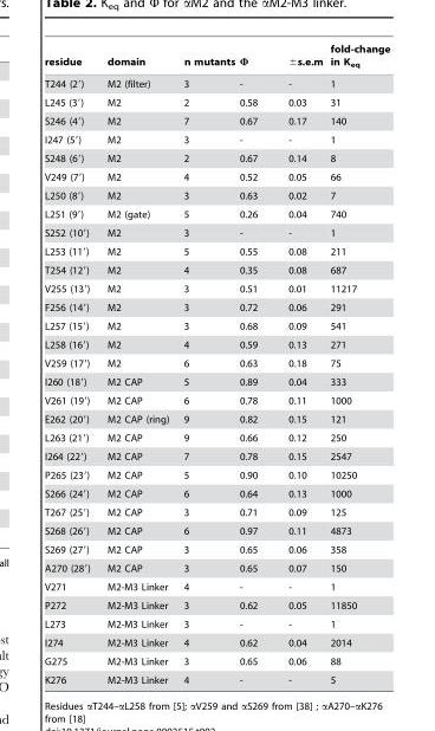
<table><thead><tr><td>residue</td><td>domain</td><td>n mutants</td><td>Φ</td><td>±s.e.m</td><td>fold-change in K<sub>eq</sub></td></tr></thead><tbody><tr><td>T244 (2′)</td><td>M2 (filter)</td><td>3</td><td>-</td><td>-</td><td>1</td></tr><tr><td>L245 (3′)</td><td>M2</td><td>2</td><td>0.58</td><td>0.03</td><td>31</td></tr><tr><td>S246 (4′)</td><td>M2</td><td>7</td><td>0.67</td><td>0.17</td><td>140</td></tr><tr><td>I247 (5′)</td><td>M2</td><td>3</td><td>-</td><td>-</td><td>1</td></tr><tr><td>S248 (6′)</td><td>M2</td><td>2</td><td>0.67</td><td>0.14</td><td>8</td></tr><tr><td>V249 (7′)</td><td>M2</td><td>4</td><td>0.52</td><td>0.05</td><td>66</td></tr><tr><td>L250 (8′)</td><td>M2</td><td>3</td><td>0.63</td><td>0.02</td><td>7</td></tr><tr><td>L251 (9′)</td><td>M2 (gate)</td><td>5</td><td>0.26</td><td>0.04</td><td>740</td></tr><tr><td>S252 (10′)</td><td>M2</td><td>3</td><td>-</td><td>-</td><td>1</td></tr><tr><td>L253 (11′)</td><td>M2</td><td>5</td><td>0.55</td><td>0.08</td><td>211</td></tr><tr><td>T254 (12′)</td><td>M2</td><td>4</td><td>0.35</td><td>0.08</td><td>687</td></tr><tr><td>V255 (13′)</td><td>M2</td><td>3</td><td>0.51</td><td>0.01</td><td>11217</td></tr><tr><td>F256 (14′)</td><td>M2</td><td>3</td><td>0.72</td><td>0.06</td><td>291</td></tr><tr><td>L257 (15′)</td><td>M2</td><td>3</td><td>0.68</td><td>0.09</td><td>541</td></tr><tr><td>L258 (16′)</td><td>M2</td><td>4</td><td>0.59</td><td>0.13</td><td>271</td></tr><tr><td>V259 (17′)</td><td>M2</td><td>6</td><td>0.63</td><td>0.18</td><td>75</td></tr><tr><td>I260 (18′)</td><td>M2 CAP</td><td>5</td><td>0.89</td><td>0.04</td><td>333</td></tr><tr><td>V261 (19′)</td><td>M2 CAP</td><td>6</td><td>0.78</td><td>0.11</td><td>1000</td></tr><tr><td>E262 (20′)</td><td>M2 CAP (ring)</td><td>9</td><td>0.82</td><td>0.15</td><td>121</td></tr><tr><td>L263 (21′)</td><td>M2 CAP</td><td>9</td><td>0.66</td><td>0.12</td><td>250</td></tr><tr><td>I264 (22′)</td><td>M2 CAP</td><td>7</td><td>0.78</td><td>0.15</td><td>2547</td></tr><tr><td>P265 (23′)</td><td>M2 CAP</td><td>5</td><td>0.90</td><td>0.10</td><td>10250</td></tr><tr><td>S266 (24′)</td><td>M2 CAP</td><td>6</td><td>0.64</td><td>0.13</td><td>1000</td></tr><tr><td>T267 (25′)</td><td>M2 CAP</td><td>3</td><td>0.71</td><td>0.09</td><td>125</td></tr><tr><td>S268 (26′)</td><td>M2 CAP</td><td>6</td><td>0.97</td><td>0.11</td><td>4873</td></tr><tr><td>S269 (27′)</td><td>M2 CAP</td><td>3</td><td>0.65</td><td>0.06</td><td>358</td></tr><tr><td>A270 (28′)</td><td>M2 CAP</td><td>3</td><td>0.65</td><td>0.07</td><td>150</td></tr><tr><td>V271</td><td>M2-M3 Linker</td><td>4</td><td>-</td><td>-</td><td>1</td></tr><tr><td>P272</td><td>M2-M3 Linker</td><td>3</td><td>0.62</td><td>0.05</td><td>11850</td></tr><tr><td>L273</td><td>M2-M3 Linker</td><td>3</td><td>-</td><td>-</td><td>1</td></tr><tr><td>I274</td><td>M2-M3 Linker</td><td>4</td><td>0.62</td><td>0.04</td><td>2014</td></tr><tr><td>G275</td><td>M2-M3 Linker</td><td>3</td><td>0.65</td><td>0.06</td><td>88</td></tr><tr><td>K276</td><td>M2-M3 Linker</td><td>4</td><td>-</td><td>-</td><td>5</td></tr></tbody></table>